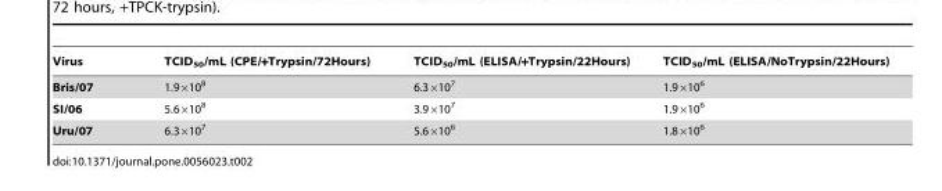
<table><thead><tr><td>Virus</td><td>TCID<sub>50</sub>/mL (CPE/+Trypsin/72Hours)</td><td>TCID<sub>50</sub>/mL (ELISA/+Trypsin/22Hours)</td><td>TCID<sub>50</sub>/mL (ELISA/NoTrypsin/22Hours)</td></tr></thead><tbody><tr><td>Bris/07</td><td>1.9×10<sup>8</sup></td><td>6.3×10<sup>7</sup></td><td>1.9×10<sup>6</sup></td></tr><tr><td>SI/06</td><td>5.6×10<sup>8</sup></td><td>3.9×10<sup>7</sup></td><td>1.9×10<sup>6</sup></td></tr><tr><td>Uru/07</td><td>6.3×10<sup>7</sup></td><td>5.6×10<sup>6</sup></td><td>1.8×10<sup>6</sup></td></tr></tbody></table>